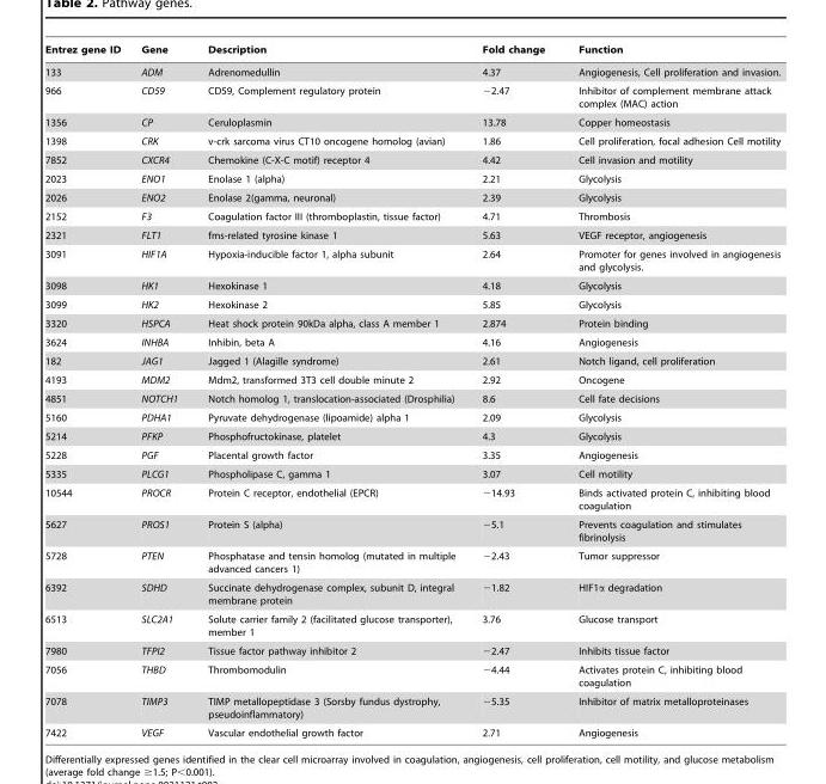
<table><thead><tr><td>Entrez gene ID</td><td>Gene</td><td>Description</td><td>Fold change</td><td>Function</td></tr></thead><tbody><tr><td>133</td><td>ADM</td><td>Adrenomedullin</td><td>4.37</td><td>Angiogenesis, Cell proliferation and invasion.</td></tr><tr><td>966</td><td>CD59</td><td>CD59, Complement regulatory protein</td><td>−2.47</td><td>Inhibitor of complement membrane attack complex (MAC) action</td></tr><tr><td>1356</td><td>CP</td><td>Ceruloplasmin</td><td>13.78</td><td>Copper homeostasis</td></tr><tr><td>1398</td><td>CRK</td><td>v-crk sarcoma virus CT10 oncogene homolog (avian)</td><td>1.86</td><td>Cell proliferation, focal adhesion Cell motility</td></tr><tr><td>7852</td><td>CXCR4</td><td>Chemokine (C-X-C motif) receptor 4</td><td>4.42</td><td>Cell invasion and motility</td></tr><tr><td>2023</td><td>ENO1</td><td>Enolase 1 (alpha)</td><td>2.21</td><td>Glycolysis</td></tr><tr><td>2026</td><td>ENO2</td><td>Enolase 2(gamma, neuronal)</td><td>2.39</td><td>Glycolysis</td></tr><tr><td>2152</td><td>F3</td><td>Coagulation factor III (thromboplastin, tissue factor)</td><td>4.71</td><td>Thrombosis</td></tr><tr><td>2321</td><td>FLT1</td><td>fms-related tyrosine kinase 1</td><td>5.63</td><td>VEGF receptor, angiogenesis</td></tr><tr><td>3091</td><td>HIF1A</td><td>Hypoxia-inducible factor 1, alpha subunit</td><td>2.64</td><td>Promoter for genes involved in angiogenesis and glycolysis.</td></tr><tr><td>3098</td><td>HK1</td><td>Hexokinase 1</td><td>4.18</td><td>Glycolysis</td></tr><tr><td>3099</td><td>HK2</td><td>Hexokinase 2</td><td>5.85</td><td>Glycolysis</td></tr><tr><td>3320</td><td>HSPCA</td><td>Heat shock protein 90kDa alpha, class A member 1</td><td>2.874</td><td>Protein binding</td></tr><tr><td>3624</td><td>INHBA</td><td>Inhibin, beta A</td><td>4.16</td><td>Angiogenesis</td></tr><tr><td>182</td><td>JAG1</td><td>Jagged 1 (Alagille syndrome)</td><td>2.61</td><td>Notch ligand, cell proliferation</td></tr><tr><td>4193</td><td>MDM2</td><td>Mdm2, transformed 3T3 cell double minute 2</td><td>2.92</td><td>Oncogene</td></tr><tr><td>4851</td><td>NOTCH1</td><td>Notch homolog 1, translocation-associated (Drosphilia)</td><td>8.6</td><td>Cell fate decisions</td></tr><tr><td>5160</td><td>PDHA1</td><td>Pyruvate dehydrogenase (lipoamide) alpha 1</td><td>2.09</td><td>Glycolysis</td></tr><tr><td>5214</td><td>PFKP</td><td>Phosphofructokinase, platelet</td><td>4.3</td><td>Glycolysis</td></tr><tr><td>5228</td><td>PGF</td><td>Placental growth factor</td><td>3.35</td><td>Angiogenesis</td></tr><tr><td>5335</td><td>PLCG1</td><td>Phospholipase C, gamma 1</td><td>3.07</td><td>Cell motility</td></tr><tr><td>10544</td><td>PROCR</td><td>Protein C receptor, endothelial (EPCR)</td><td>−14.93</td><td>Binds activated protein C, inhibiting blood coagulation</td></tr><tr><td>5627</td><td>PROS1</td><td>Protein S (alpha)</td><td>−5.1</td><td>Prevents coagulation and stimulates fibrinolysis</td></tr><tr><td>5728</td><td>PTEN</td><td>Phosphatase and tensin homolog (mutated in multiple advanced cancers 1)</td><td>−2.43</td><td>Tumor suppressor</td></tr><tr><td>6392</td><td>SDHD</td><td>Succinate dehydrogenase complex, subunit D, integral membrane protein</td><td>−1.82</td><td>HIF1α degradation</td></tr><tr><td>6513</td><td>SLC2A1</td><td>Solute carrier family 2 (facilitated glucose transporter), member 1</td><td>3.76</td><td>Glucose transport</td></tr><tr><td>7980</td><td>TFPI2</td><td>Tissue factor pathway inhibitor 2</td><td>−2.47</td><td>Inhibits tissue factor</td></tr><tr><td>7056</td><td>THBD</td><td>Thrombomodulin</td><td>−4.44</td><td>Activates protein C, inhibiting blood coagulation</td></tr><tr><td>7078</td><td>TIMP3</td><td>TIMP metallopeptidase 3 (Sorsby fundus dystrophy, pseudoinflammatory)</td><td>−5.35</td><td>Inhibitor of matrix metalloproteinases</td></tr><tr><td>7422</td><td>VEGF</td><td>Vascular endothelial growth factor</td><td>2.71</td><td>Angiogenesis</td></tr></tbody></table>